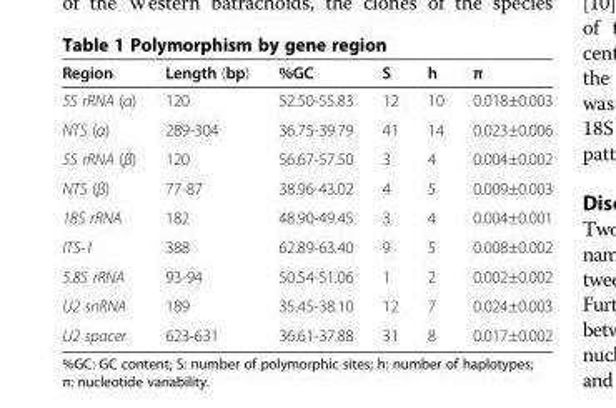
<table><thead><tr><td>Region</td><td>Length (bp)</td><td>%GC</td><td>S</td><td>h</td><td>π</td></tr></thead><tbody><tr><td>5S rRNA (α)</td><td>120</td><td>52.50-55.83</td><td>12</td><td>10</td><td>0.018±0.003</td></tr><tr><td>NTS (α)</td><td>289-304</td><td>36.75-39.79</td><td>41</td><td>14</td><td>0.023±0.006</td></tr><tr><td>5S rRNA (β)</td><td>120</td><td>56.67-57.50</td><td>3</td><td>4</td><td>0.004±0.002</td></tr><tr><td>NTS (β)</td><td>77-87</td><td>38.96-43.02</td><td>4</td><td>5</td><td>0.009±0.003</td></tr><tr><td>18S rRNA</td><td>182</td><td>48.90-49.45</td><td>3</td><td>4</td><td>0.004±0.001</td></tr><tr><td>ITS-1</td><td>388</td><td>62.89-63.40</td><td>9</td><td>5</td><td>0.008±0.002</td></tr><tr><td>5.8S rRNA</td><td>93-94</td><td>50.54-51.06</td><td>1</td><td>2</td><td>0.002±0.002</td></tr><tr><td>U2 snRNA</td><td>189</td><td>35.45-38.10</td><td>12</td><td>7</td><td>0.024±0.003</td></tr><tr><td>U2 spacer</td><td>623-631</td><td>36.61-37.88</td><td>31</td><td>8</td><td>0.017±0.002</td></tr></tbody></table>